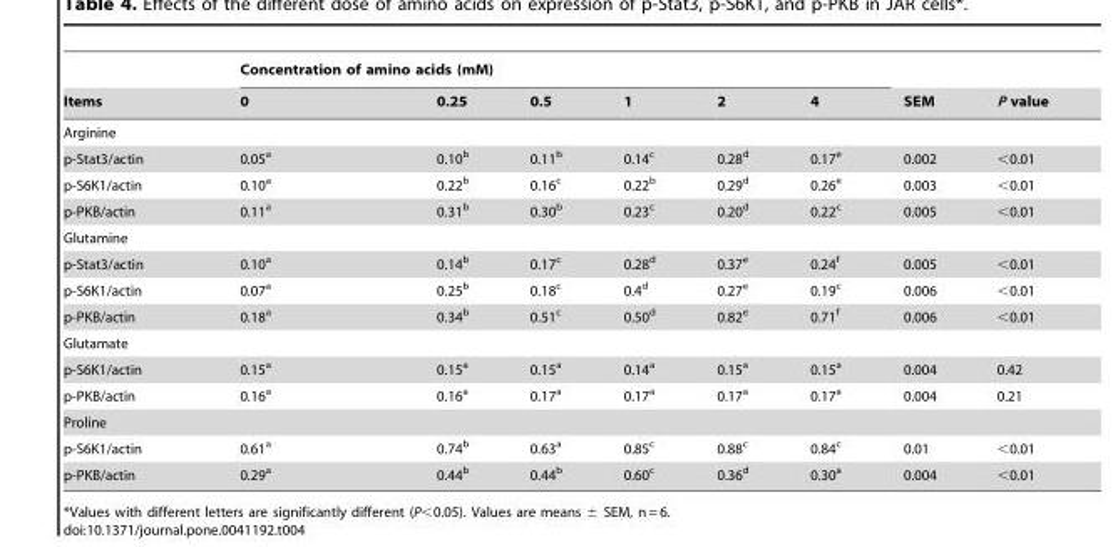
<table><thead><tr><td rowspan="2">Items</td><td colspan="6">Concentration of amino acids (mM)</td><td rowspan="2">SEM</td><td rowspan="2">P value</td></tr><tr><td>0</td><td>0.25</td><td>0.5</td><td>1</td><td>2</td><td>4</td></tr></thead><tbody><tr><td colspan="9">Arginine</td></tr><tr><td>p-Stat3/actin</td><td>0.05<sup>a</sup></td><td>0.10<sup>b</sup></td><td>0.11<sup>b</sup></td><td>0.14<sup>c</sup></td><td>0.28<sup>d</sup></td><td>0.17<sup>e</sup></td><td>0.002</td><td>&lt;0.01</td></tr><tr><td>p-S6K1/actin</td><td>0.10<sup>a</sup></td><td>0.22<sup>b</sup></td><td>0.16<sup>c</sup></td><td>0.22<sup>b</sup></td><td>0.29<sup>d</sup></td><td>0.26<sup>e</sup></td><td>0.003</td><td>&lt;0.01</td></tr><tr><td>p-PKB/actin</td><td>0.11<sup>a</sup></td><td>0.31<sup>b</sup></td><td>0.30<sup>b</sup></td><td>0.23<sup>c</sup></td><td>0.20<sup>d</sup></td><td>0.22<sup>c</sup></td><td>0.005</td><td>&lt;0.01</td></tr><tr><td colspan="9">Glutamine</td></tr><tr><td>p-Stat3/actin</td><td>0.10<sup>a</sup></td><td>0.14<sup>b</sup></td><td>0.17<sup>c</sup></td><td>0.28<sup>d</sup></td><td>0.37<sup>e</sup></td><td>0.24<sup>f</sup></td><td>0.005</td><td>&lt;0.01</td></tr><tr><td>p-S6K1/actin</td><td>0.07<sup>a</sup></td><td>0.25<sup>b</sup></td><td>0.18<sup>c</sup></td><td>0.4<sup>d</sup></td><td>0.27<sup>e</sup></td><td>0.19<sup>c</sup></td><td>0.006</td><td>&lt;0.01</td></tr><tr><td>p-PKB/actin</td><td>0.18<sup>a</sup></td><td>0.34<sup>b</sup></td><td>0.51<sup>c</sup></td><td>0.50<sup>d</sup></td><td>0.82<sup>e</sup></td><td>0.71<sup>f</sup></td><td>0.006</td><td>&lt;0.01</td></tr><tr><td colspan="9">Glutamate</td></tr><tr><td>p-S6K1/actin</td><td>0.15<sup>a</sup></td><td>0.15<sup>a</sup></td><td>0.15<sup>a</sup></td><td>0.14<sup>a</sup></td><td>0.15<sup>a</sup></td><td>0.15<sup>a</sup></td><td>0.004</td><td>0.42</td></tr><tr><td>p-PKB/actin</td><td>0.16<sup>a</sup></td><td>0.16<sup>a</sup></td><td>0.17<sup>a</sup></td><td>0.17<sup>a</sup></td><td>0.17<sup>a</sup></td><td>0.17<sup>a</sup></td><td>0.004</td><td>0.21</td></tr><tr><td colspan="9">Proline</td></tr><tr><td>p-S6K1/actin</td><td>0.61<sup>a</sup></td><td>0.74<sup>b</sup></td><td>0.63<sup>a</sup></td><td>0.85<sup>c</sup></td><td>0.88<sup>c</sup></td><td>0.84<sup>c</sup></td><td>0.01</td><td>&lt;0.01</td></tr><tr><td>p-PKB/actin</td><td>0.29<sup>a</sup></td><td>0.44<sup>b</sup></td><td>0.44<sup>b</sup></td><td>0.60<sup>c</sup></td><td>0.36<sup>d</sup></td><td>0.30<sup>a</sup></td><td>0.004</td><td>&lt;0.01</td></tr></tbody></table>